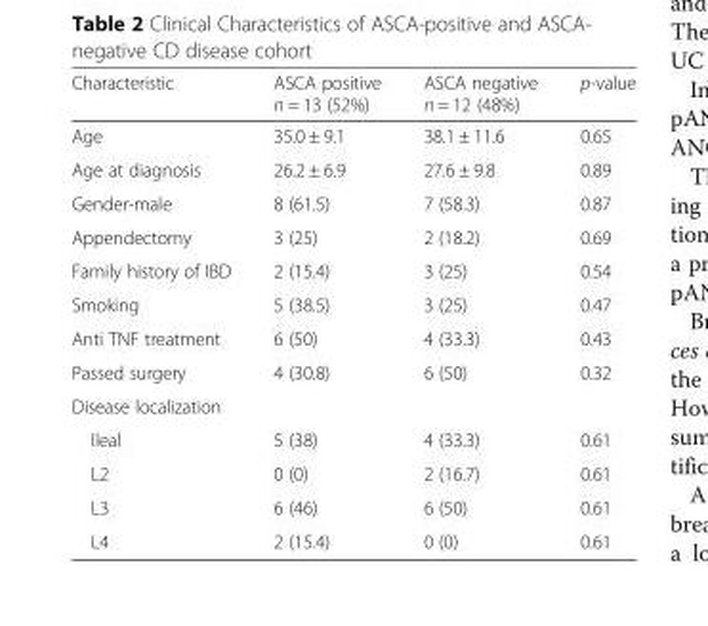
<table><thead><tr><td>Characteristic</td><td>ASCA positive n = 13 (52%)</td><td>ASCA negative n = 12 (48%)</td><td>p-value</td></tr></thead><tbody><tr><td>Age</td><td>35.0 ± 9.1</td><td>38.1 ± 11.6</td><td>0.65</td></tr><tr><td>Age at diagnosis</td><td>26.2 ± 6.9</td><td>27.6 ± 9.8</td><td>0.89</td></tr><tr><td>Gender-male</td><td>8 (61.5)</td><td>7 (58.3)</td><td>0.87</td></tr><tr><td>Appendectomy</td><td>3 (25)</td><td>2 (18.2)</td><td>0.69</td></tr><tr><td>Family history of IBD</td><td>2 (15.4)</td><td>3 (25)</td><td>0.54</td></tr><tr><td>Smoking</td><td>5 (38.5)</td><td>3 (25)</td><td>0.47</td></tr><tr><td>Anti TNF treatment</td><td>6 (50)</td><td>4 (33.3)</td><td>0.43</td></tr><tr><td>Passed surgery</td><td>4 (30.8)</td><td>6 (50)</td><td>0.32</td></tr><tr><td colspan="4">Disease localization</td></tr><tr><td>Ileal</td><td>5 (38)</td><td>4 (33.3)</td><td>0.61</td></tr><tr><td>L2</td><td>0 (0)</td><td>2 (16.7)</td><td>0.61</td></tr><tr><td>L3</td><td>6 (46)</td><td>6 (50)</td><td>0.61</td></tr><tr><td>L4</td><td>2 (15.4)</td><td>0 (0)</td><td>0.61</td></tr></tbody></table>